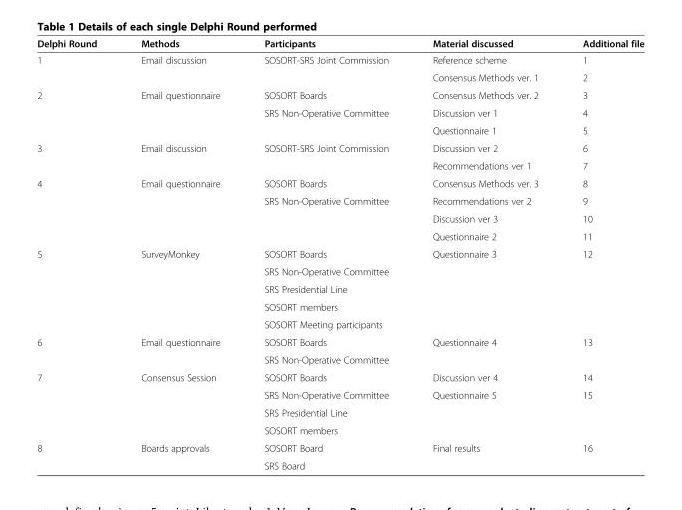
<table><thead><tr><td>Delphi Round</td><td>Methods</td><td>Participants</td><td>Material discussed</td><td>Additional file</td></tr></thead><tbody><tr><td rowspan="2">1</td><td rowspan="2">Email discussion</td><td rowspan="2">SOSORT-SRS Joint Commission</td><td>Reference scheme</td><td>1</td></tr><tr><td>Consensus Methods ver. 1</td><td>2</td></tr><tr><td rowspan="3">2</td><td rowspan="3">Email questionnaire</td><td>SOSORT Boards</td><td>Consensus Methods ver. 2</td><td>3</td></tr><tr><td rowspan="2">SRS Non-Operative Committee</td><td>Discussion ver 1</td><td>4</td></tr><tr><td>Questionnaire 1</td><td>5</td></tr><tr><td rowspan="2">3</td><td rowspan="2">Email discussion</td><td rowspan="2">SOSORT-SRS Joint Commission</td><td>Discussion ver 2</td><td>6</td></tr><tr><td>Recommendations ver 1</td><td>7</td></tr><tr><td rowspan="4">4</td><td rowspan="4">Email questionnaire</td><td>SOSORT Boards</td><td>Consensus Methods ver. 3</td><td>8</td></tr><tr><td rowspan="3">SRS Non-Operative Committee</td><td>Recommendations ver 2</td><td>9</td></tr><tr><td>Discussion ver 3</td><td>10</td></tr><tr><td>Questionnaire 2</td><td>11</td></tr><tr><td rowspan="5">5</td><td rowspan="5">SurveyMonkey</td><td>SOSORT Boards</td><td rowspan="5">Questionnaire 3</td><td rowspan="5">12</td></tr><tr><td>SRS Non-Operative Committee</td></tr><tr><td>SRS Presidential Line</td></tr><tr><td>SOSORT members</td></tr><tr><td>SOSORT Meeting participants</td></tr><tr><td rowspan="2">6</td><td rowspan="2">Email questionnaire</td><td>SOSORT Boards</td><td rowspan="2">Questionnaire 4</td><td rowspan="2">13</td></tr><tr><td>SRS Non-Operative Committee</td></tr><tr><td rowspan="4">7</td><td rowspan="4">Consensus Session</td><td>SOSORT Boards</td><td>Discussion ver 4</td><td>14</td></tr><tr><td>SRS Non-Operative Committee</td><td rowspan="3">Questionnaire 5</td><td rowspan="3">15</td></tr><tr><td>SRS Presidential Line</td></tr><tr><td>SOSORT members</td></tr><tr><td rowspan="2">8</td><td rowspan="2">Boards approvals</td><td>SOSORT Board</td><td rowspan="2">Final results</td><td rowspan="2">16</td></tr><tr><td>SRS Board</td></tr></tbody></table>